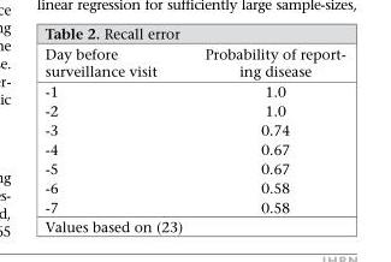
<table><thead><tr><td>Day before surveillance visit</td><td>Probability of report- ing disease</td></tr></thead><tbody><tr><td>-1</td><td>1.0</td></tr><tr><td>-2</td><td>1.0</td></tr><tr><td>-3</td><td>0.74</td></tr><tr><td>-4</td><td>0.67</td></tr><tr><td>-5</td><td>0.67</td></tr><tr><td>-6</td><td>0.58</td></tr><tr><td>-7</td><td>0.58</td></tr></tbody></table>